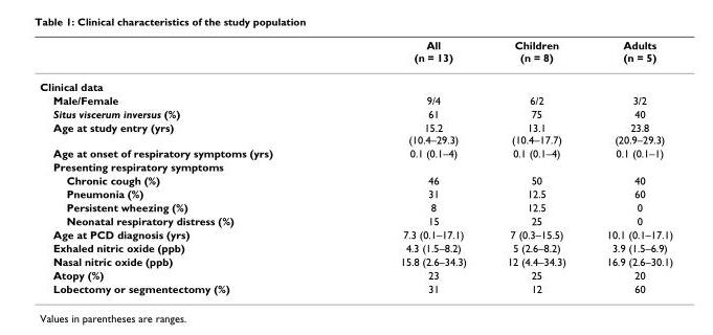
<table><thead><tr><td></td><td>All (n = 13)</td><td>Children (n = 8)</td><td>Adults (n = 5)</td></tr></thead><tbody><tr><td colspan="4">Clinical data</td></tr><tr><td>Male/Female</td><td>9/4</td><td>6/2</td><td>3/2</td></tr><tr><td>Situs viscerum inversus (%)</td><td>61</td><td>75</td><td>40</td></tr><tr><td>Age at study entry (yrs)</td><td>15.2 (10.4–29.3)</td><td>13.1 (10.4–17.7)</td><td>23.8 (20.9–29.3)</td></tr><tr><td>Age at onset of respiratory symptoms (yrs)</td><td>0.1 (0.1–4)</td><td>0.1 (0.1–4)</td><td>0.1 (0.1–1)</td></tr><tr><td colspan="4">Presenting respiratory symptoms</td></tr><tr><td>Chronic cough (%)</td><td>46</td><td>50</td><td>40</td></tr><tr><td>Pneumonia (%)</td><td>31</td><td>12.5</td><td>60</td></tr><tr><td>Persistent wheezing (%)</td><td>8</td><td>12.5</td><td>0</td></tr><tr><td>Neonatal respiratory distress (%)</td><td>15</td><td>25</td><td>0</td></tr><tr><td>Age at PCD diagnosis (yrs)</td><td>7.3 (0.1–17.1)</td><td>7 (0.3–15.5)</td><td>10.1 (0.1–17.1)</td></tr><tr><td>Exhaled nitric oxide (ppb)</td><td>4.3 (1.5–8.2)</td><td>5 (2.6–8.2)</td><td>3.9 (1.5–6.9)</td></tr><tr><td>Nasal nitric oxide (ppb)</td><td>15.8 (2.6–34.3)</td><td>12 (4.4–34.3)</td><td>16.9 (2.6–30.1)</td></tr><tr><td>Atopy (%)</td><td>23</td><td>25</td><td>20</td></tr><tr><td>Lobectomy or segmentectomy (%)</td><td>31</td><td>12</td><td>60</td></tr></tbody></table>